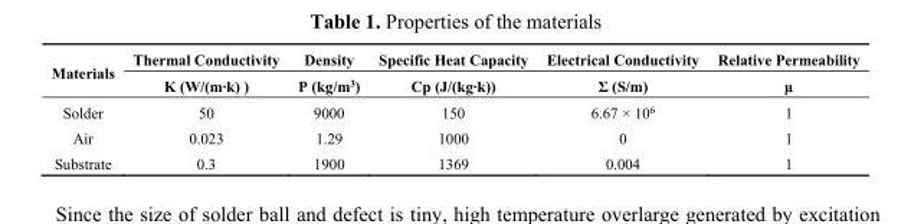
<table><thead><tr><td rowspan="2">Materials</td><td rowspan="2">Thermal Conductivity K (W/(m·k) )</td><td rowspan="2">Density Ρ (kg/m<sup>3</sup>)</td><td rowspan="2">Specific Heat Capacity Cp (J/(kg·k))</td><td rowspan="2">Electrical Conductivity Σ (S/m)</td><td rowspan="2">Relative Permeability μ</td></tr><tr></tr></thead><tbody><tr><td>Solder</td><td>50</td><td>9000</td><td>150</td><td>6.67 × 10<sup>6</sup></td><td>1</td></tr><tr><td>Air</td><td>0.023</td><td>1.29</td><td>1000</td><td>0</td><td>1</td></tr><tr><td>Substrate</td><td>0.3</td><td>1900</td><td>1369</td><td>0.004</td><td>1</td></tr></tbody></table>